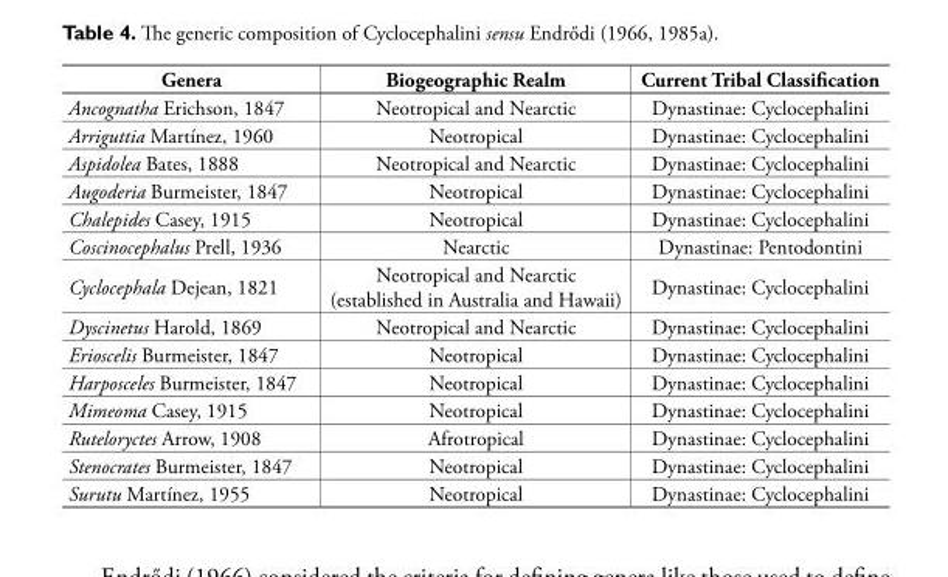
<table><thead><tr><td>Genera</td><td>Biogeographic Realm</td><td>Current Tribal Classification</td></tr></thead><tbody><tr><td>Ancognatha Erichson, 1847</td><td>Neotropical and Nearctic</td><td>Dynastinae: Cyclocephalini</td></tr><tr><td>Arriguttia Martínez, 1960</td><td>Neotropical</td><td>Dynastinae: Cyclocephalini</td></tr><tr><td>Aspidolea Bates, 1888</td><td>Neotropical and Nearctic</td><td>Dynastinae: Cyclocephalini</td></tr><tr><td>Augoderia Burmeister, 1847</td><td>Neotropical</td><td>Dynastinae: Cyclocephalini</td></tr><tr><td>Chalepides Casey, 1915</td><td>Neotropical</td><td>Dynastinae: Cyclocephalini</td></tr><tr><td>Coscinocephalus Prell, 1936</td><td>Nearctic</td><td>Dynastinae: Pentodontini</td></tr><tr><td>Cyclocephala Dejean, 1821</td><td>Neotropical and Nearctic (established in Australia and Hawaii)</td><td>Dynastinae: Cyclocephalini</td></tr><tr><td>Dyscinetus Harold, 1869</td><td>Neotropical and Nearctic</td><td>Dynastinae: Cyclocephalini</td></tr><tr><td>Erioscelis Burmeister, 1847</td><td>Neotropical</td><td>Dynastinae: Cyclocephalini</td></tr><tr><td>Harposceles Burmeister, 1847</td><td>Neotropical</td><td>Dynastinae: Cyclocephalini</td></tr><tr><td>Mimeoma Casey, 1915</td><td>Neotropical</td><td>Dynastinae: Cyclocephalini</td></tr><tr><td>Ruteloryctes Arrow, 1908</td><td>Afrotropical</td><td>Dynastinae: Cyclocephalini</td></tr><tr><td>Stenocrates Burmeister, 1847</td><td>Neotropical</td><td>Dynastinae: Cyclocephalini</td></tr><tr><td>Surutu Martínez, 1955</td><td>Neotropical</td><td>Dynastinae: Cyclocephalini</td></tr></tbody></table>